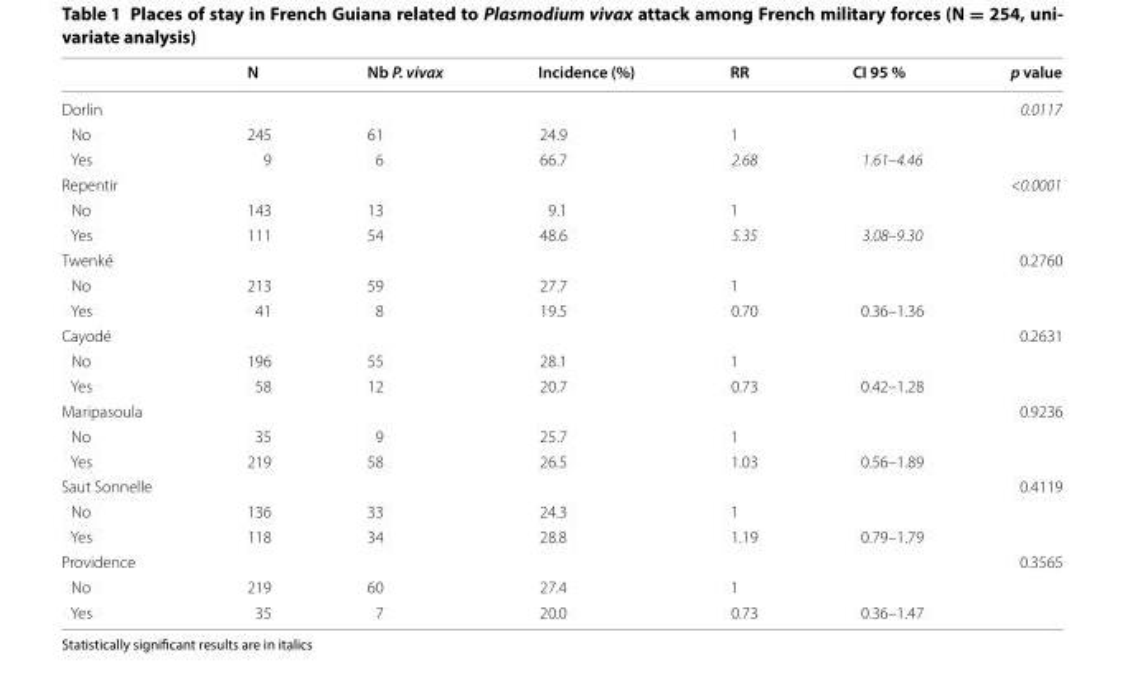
<table><thead><tr><td></td><td>N</td><td>Nb P. vivax</td><td>Incidence (%)</td><td>RR</td><td>CI 95 %</td><td>p value</td></tr></thead><tbody><tr><td>Dorlin</td><td></td><td></td><td></td><td></td><td></td><td>0.0117</td></tr><tr><td>No</td><td>245</td><td>61</td><td>24.9</td><td>1</td><td></td><td></td></tr><tr><td>Yes</td><td>9</td><td>6</td><td>66.7</td><td>2.68</td><td>1.61–4.46</td><td></td></tr><tr><td>Repentir</td><td></td><td></td><td></td><td></td><td></td><td>&lt;0.0001</td></tr><tr><td>No</td><td>143</td><td>13</td><td>9.1</td><td>1</td><td></td><td></td></tr><tr><td>Yes</td><td>111</td><td>54</td><td>48.6</td><td>5.35</td><td>3.08–9.30</td><td></td></tr><tr><td>Twenké</td><td></td><td></td><td></td><td></td><td></td><td>0.2760</td></tr><tr><td>No</td><td>213</td><td>59</td><td>27.7</td><td>1</td><td></td><td></td></tr><tr><td>Yes</td><td>41</td><td>8</td><td>19.5</td><td>0.70</td><td>0.36–1.36</td><td></td></tr><tr><td>Cayodé</td><td></td><td></td><td></td><td></td><td></td><td>0.2631</td></tr><tr><td>No</td><td>196</td><td>55</td><td>28.1</td><td>1</td><td></td><td></td></tr><tr><td>Yes</td><td>58</td><td>12</td><td>20.7</td><td>0.73</td><td>0.42–1.28</td><td></td></tr><tr><td>Maripasoula</td><td></td><td></td><td></td><td></td><td></td><td>0.9236</td></tr><tr><td>No</td><td>35</td><td>9</td><td>25.7</td><td>1</td><td></td><td></td></tr><tr><td>Yes</td><td>219</td><td>58</td><td>26.5</td><td>1.03</td><td>0.56–1.89</td><td></td></tr><tr><td>Saut Sonnelle</td><td></td><td></td><td></td><td></td><td></td><td>0.4119</td></tr><tr><td>No</td><td>136</td><td>33</td><td>24.3</td><td>1</td><td></td><td></td></tr><tr><td>Yes</td><td>118</td><td>34</td><td>28.8</td><td>1.19</td><td>0.79–1.79</td><td></td></tr><tr><td>Providence</td><td></td><td></td><td></td><td></td><td></td><td>0.3565</td></tr><tr><td>No</td><td>219</td><td>60</td><td>27.4</td><td>1</td><td></td><td></td></tr><tr><td>Yes</td><td>35</td><td>7</td><td>20.0</td><td>0.73</td><td>0.36–1.47</td><td></td></tr></tbody></table>